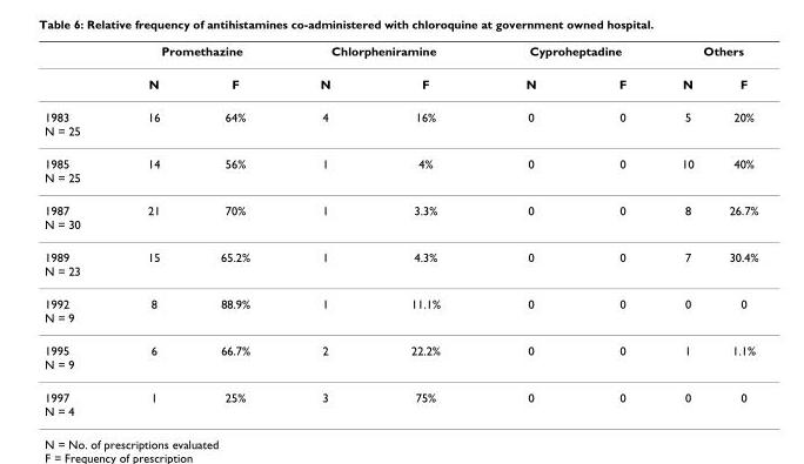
<table><thead><tr><td rowspan="2"></td><td colspan="2">Promethazine</td><td colspan="2">Chlorpheniramine</td><td colspan="2">Cyproheptadine</td><td colspan="2">Others</td></tr><tr><td>N</td><td>F</td><td>N</td><td>F</td><td>N</td><td>F</td><td>N</td><td>F</td></tr></thead><tbody><tr><td>1983 N = 25</td><td>16</td><td>64%</td><td>4</td><td>16%</td><td>0</td><td>0</td><td>5</td><td>20%</td></tr><tr><td>1985 N = 25</td><td>14</td><td>56%</td><td>1</td><td>4%</td><td>0</td><td>0</td><td>10</td><td>40%</td></tr><tr><td>1987 N = 30</td><td>21</td><td>70%</td><td>1</td><td>3.3%</td><td>0</td><td>0</td><td>8</td><td>26.7%</td></tr><tr><td>1989 N = 23</td><td>15</td><td>65.2%</td><td>1</td><td>4.3%</td><td>0</td><td>0</td><td>7</td><td>30.4%</td></tr><tr><td>1992 N = 9</td><td>8</td><td>88.9%</td><td>1</td><td>11.1%</td><td>0</td><td>0</td><td>0</td><td>0</td></tr><tr><td>1995 N = 9</td><td>6</td><td>66.7%</td><td>2</td><td>22.2%</td><td>0</td><td>0</td><td>1</td><td>1.1%</td></tr><tr><td>1997 N = 4</td><td>1</td><td>25%</td><td>3</td><td>75%</td><td>0</td><td>0</td><td>0</td><td>0</td></tr></tbody></table>